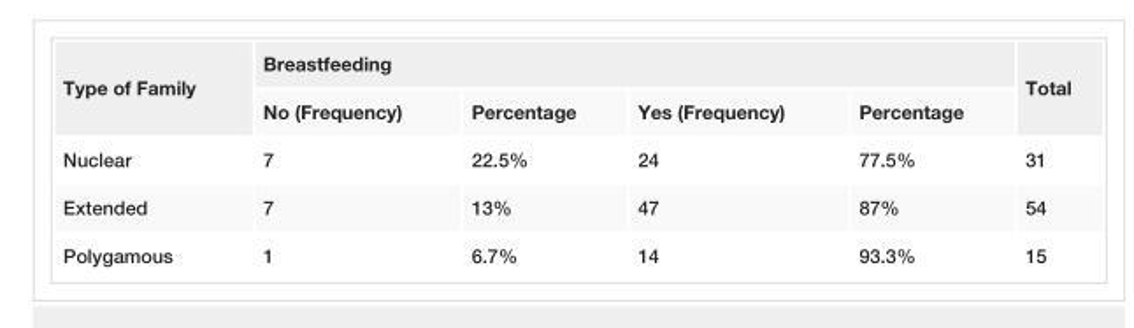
<table><tbody><tr><td rowspan="2">Type of Family</td><td colspan="4">Breastfeeding</td><td rowspan="2">Total</td></tr><tr><td>No (Frequency)</td><td>Percentage</td><td>Yes (Frequency)</td><td>Percentage</td></tr><tr><td>Nuclear</td><td>7</td><td>22.5%</td><td>24</td><td>77.5%</td><td>31</td></tr><tr><td>Extended</td><td>7</td><td>13%</td><td>47</td><td>87%</td><td>54</td></tr><tr><td>Polygamous</td><td>1</td><td>6.7%</td><td>14</td><td>93.3%</td><td>15</td></tr></tbody></table>